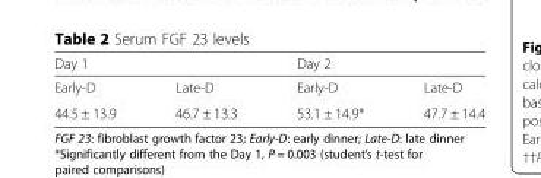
<table><thead><tr><td colspan="2">Day 1</td><td colspan="2">Day 2</td></tr><tr><td>Early-D</td><td>Late-D</td><td>Early-D</td><td>Late-D</td></tr></thead><tbody><tr><td>44.5 ± 13.9</td><td>46.7 ± 13.3</td><td>53.1 ± 14.9*</td><td>47.7 ± 14.4</td></tr></tbody></table>